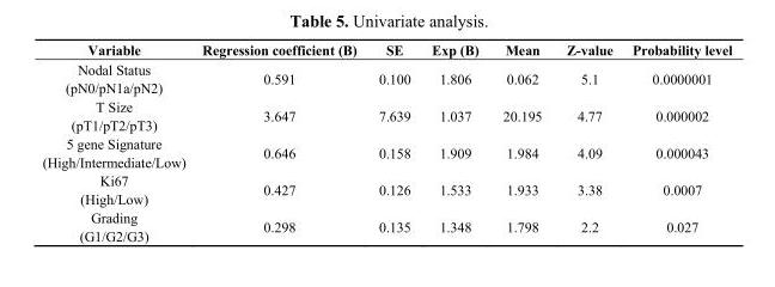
<table><thead><tr><td>Variable</td><td>Regression coefficient (B)</td><td>SE</td><td>Exp (B)</td><td>Mean</td><td>Z-value</td><td>Probability level</td></tr></thead><tbody><tr><td>Nodal Status (pN0/pN1a/pN2)</td><td>0.591</td><td>0.100</td><td>1.806</td><td>0.062</td><td>5.1</td><td>0.0000001</td></tr><tr><td>T Size (pT1/pT2/pT3)</td><td>3.647</td><td>7.639</td><td>1.037</td><td>20.195</td><td>4.77</td><td>0.000002</td></tr><tr><td>5 gene Signature (High/Intermediate/Low)</td><td>0.646</td><td>0.158</td><td>1.909</td><td>1.984</td><td>4.09</td><td>0.000043</td></tr><tr><td>Ki67 (High/Low)</td><td>0.427</td><td>0.126</td><td>1.533</td><td>1.933</td><td>3.38</td><td>0.0007</td></tr><tr><td>Grading (G1/G2/G3)</td><td>0.298</td><td>0.135</td><td>1.348</td><td>1.798</td><td>2.2</td><td>0.027</td></tr></tbody></table>